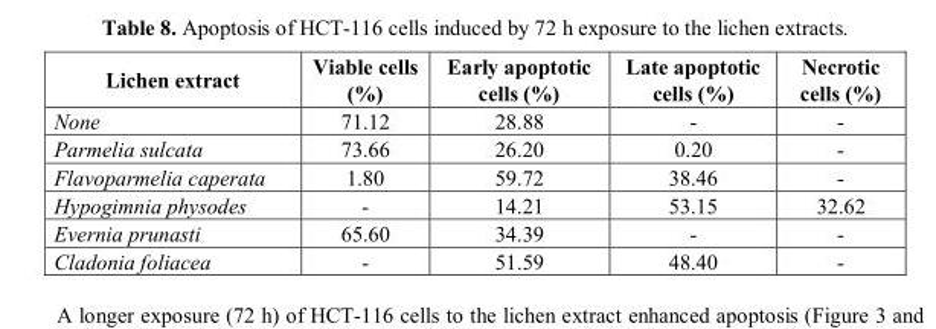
<table><thead><tr><td>Lichen extract</td><td>Viable cells (%)</td><td>Early apoptotic cells (%)</td><td>Late apoptotic cells (%)</td><td>Necrotic cells (%)</td></tr></thead><tbody><tr><td>None</td><td>71.12</td><td>28.88</td><td>-</td><td>-</td></tr><tr><td>Parmelia sulcata</td><td>73.66</td><td>26.20</td><td>0.20</td><td>-</td></tr><tr><td>Flavoparmelia caperata</td><td>1.80</td><td>59.72</td><td>38.46</td><td>-</td></tr><tr><td>Hypogimnia physodes</td><td>-</td><td>14.21</td><td>53.15</td><td>32.62</td></tr><tr><td>Evernia prunasti</td><td>65.60</td><td>34.39</td><td>-</td><td>-</td></tr><tr><td>Cladonia foliacea</td><td>-</td><td>51.59</td><td>48.40</td><td>-</td></tr></tbody></table>